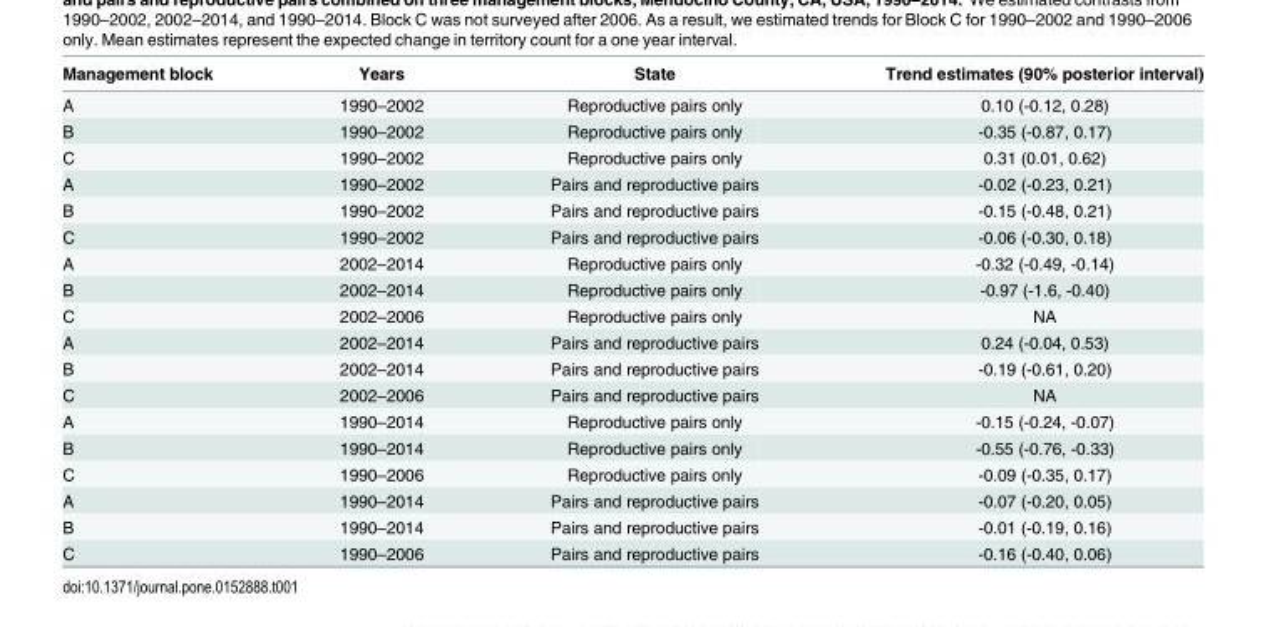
<table><thead><tr><td>Management block</td><td>Years</td><td>State</td><td>Trend estimates (90% posterior interval)</td></tr></thead><tbody><tr><td>A</td><td>1990–2002</td><td>Reproductive pairs only</td><td>0.10 (-0.12, 0.28)</td></tr><tr><td>B</td><td>1990–2002</td><td>Reproductive pairs only</td><td>-0.35 (-0.87, 0.17)</td></tr><tr><td>C</td><td>1990–2002</td><td>Reproductive pairs only</td><td>0.31 (0.01, 0.62)</td></tr><tr><td>A</td><td>1990–2002</td><td>Pairs and reproductive pairs</td><td>-0.02 (-0.23, 0.21)</td></tr><tr><td>B</td><td>1990–2002</td><td>Pairs and reproductive pairs</td><td>-0.15 (-0.48, 0.21)</td></tr><tr><td>C</td><td>1990–2002</td><td>Pairs and reproductive pairs</td><td>-0.06 (-0.30, 0.18)</td></tr><tr><td>A</td><td>2002–2014</td><td>Reproductive pairs only</td><td>-0.32 (-0.49, -0.14)</td></tr><tr><td>B</td><td>2002–2014</td><td>Reproductive pairs only</td><td>-0.97 (-1.6, -0.40)</td></tr><tr><td>C</td><td>2002–2006</td><td>Reproductive pairs only</td><td>NA</td></tr><tr><td>A</td><td>2002–2014</td><td>Pairs and reproductive pairs</td><td>0.24 (-0.04, 0.53)</td></tr><tr><td>B</td><td>2002–2014</td><td>Pairs and reproductive pairs</td><td>-0.19 (-0.61, 0.20)</td></tr><tr><td>C</td><td>2002–2006</td><td>Pairs and reproductive pairs</td><td>NA</td></tr><tr><td>A</td><td>1990–2014</td><td>Reproductive pairs only</td><td>-0.15 (-0.24, -0.07)</td></tr><tr><td>B</td><td>1990–2014</td><td>Reproductive pairs only</td><td>-0.55 (-0.76, -0.33)</td></tr><tr><td>C</td><td>1990–2006</td><td>Reproductive pairs only</td><td>-0.09 (-0.35, 0.17)</td></tr><tr><td>A</td><td>1990–2014</td><td>Pairs and reproductive pairs</td><td>-0.07 (-0.20, 0.05)</td></tr><tr><td>B</td><td>1990–2014</td><td>Pairs and reproductive pairs</td><td>-0.01 (-0.19, 0.16)</td></tr><tr><td>C</td><td>1990–2006</td><td>Pairs and reproductive pairs</td><td>-0.16 (-0.40, 0.06)</td></tr></tbody></table>